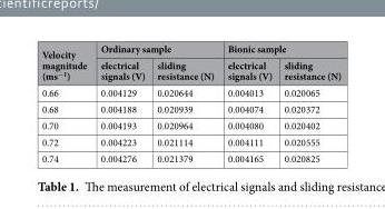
<table><thead><tr><td rowspan="2">Velocity magnitude (ms<sup>−1</sup>)</td><td colspan="2">Ordinary sample</td><td colspan="2">Bionic sample</td></tr><tr><td>electrical signals (V)</td><td>sliding resistance (N)</td><td>electrical signals (V)</td><td>sliding resistance (N)</td></tr></thead><tbody><tr><td>0.66</td><td>0.004129</td><td>0.020644</td><td>0.004013</td><td>0.020065</td></tr><tr><td>0.68</td><td>0.004188</td><td>0.020939</td><td>0.004074</td><td>0.020372</td></tr><tr><td>0.70</td><td>0.004193</td><td>0.020964</td><td>0.004080</td><td>0.020402</td></tr><tr><td>0.72</td><td>0.004223</td><td>0.021114</td><td>0.004111</td><td>0.020555</td></tr><tr><td>0.74</td><td>0.004276</td><td>0.021379</td><td>0.004165</td><td>0.020825</td></tr></tbody></table>